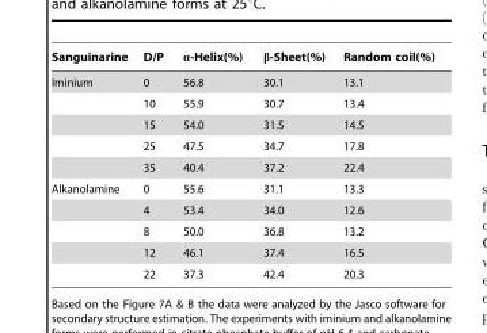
<table><thead><tr><td>Sanguinarine</td><td>D/P</td><td>α-Helix(%)</td><td>β-Sheet(%)</td><td>Random coil(%)</td></tr></thead><tbody><tr><td rowspan="5">Iminium</td><td>0</td><td>56.8</td><td>30.1</td><td>13.1</td></tr><tr><td>10</td><td>55.9</td><td>30.7</td><td>13.4</td></tr><tr><td>15</td><td>54.0</td><td>31.5</td><td>14.5</td></tr><tr><td>25</td><td>47.5</td><td>34.7</td><td>17.8</td></tr><tr><td>35</td><td>40.4</td><td>37.2</td><td>22.4</td></tr><tr><td rowspan="5">Alkanolamine</td><td>0</td><td>55.6</td><td>31.1</td><td>13.3</td></tr><tr><td>4</td><td>53.4</td><td>34.0</td><td>12.6</td></tr><tr><td>8</td><td>50.0</td><td>36.8</td><td>13.2</td></tr><tr><td>12</td><td>46.1</td><td>37.4</td><td>16.5</td></tr><tr><td>22</td><td>37.3</td><td>42.4</td><td>20.3</td></tr></tbody></table>